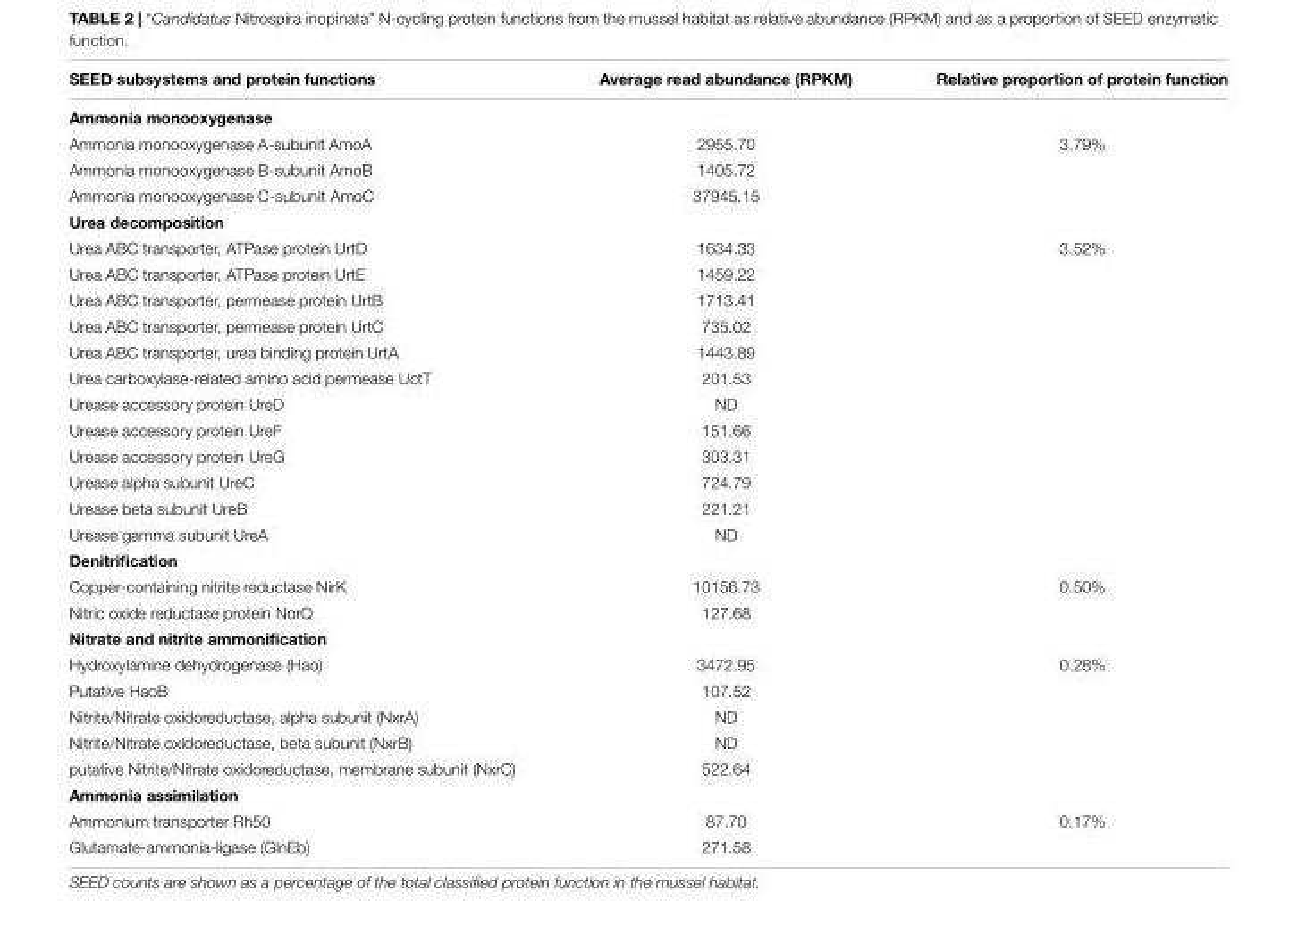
<table><thead><tr><td>SEED subsystems and protein functions</td><td>Average read abundance (RPKM)</td><td>Relative proportion of protein function</td></tr></thead><tbody><tr><td colspan="3">Ammonia monooxygenase</td></tr><tr><td>Ammonia monooxygenase A-subunit AmoA</td><td>2955.70</td><td>3.79%</td></tr><tr><td>Ammonia monooxygenase B-subunit AmoB</td><td>1405.72</td><td></td></tr><tr><td>Ammonia monooxygenase C-subunit AmoC</td><td>37945.15</td><td></td></tr><tr><td colspan="3">Urea decomposition</td></tr><tr><td>Urea ABC transporter, ATPase protein UrtD</td><td>1634.33</td><td>3.52%</td></tr><tr><td>Urea ABC transporter, ATPase protein UrtE</td><td>1459.22</td><td></td></tr><tr><td>Urea ABC transporter, permease protein UrtB</td><td>1713.41</td><td></td></tr><tr><td>Urea ABC transporter, permease protein UrtC</td><td>735.02</td><td></td></tr><tr><td>Urea ABC transporter, urea binding protein UrtA</td><td>1443.89</td><td></td></tr><tr><td>Urea carboxylase-related amino acid permease UctT</td><td>201.53</td><td></td></tr><tr><td>Urease accessory protein UreD</td><td>ND</td><td></td></tr><tr><td>Urease accessory protein UreF</td><td>151.66</td><td></td></tr><tr><td>Urease accessory protein UreG</td><td>303.31</td><td></td></tr><tr><td>Urease alpha subunit UreC</td><td>724.79</td><td></td></tr><tr><td>Urease beta subunit UreB</td><td>221.21</td><td></td></tr><tr><td>Urease gamma subunit UreA</td><td>ND</td><td></td></tr><tr><td colspan="3">Denitrification</td></tr><tr><td>Copper-containing nitrite reductase NirK</td><td>10156.73</td><td>0.50%</td></tr><tr><td>Nitric oxide reductase protein NorQ</td><td>127.68</td><td></td></tr><tr><td colspan="3">Nitrate and nitrite ammonification</td></tr><tr><td>Hydroxylamine dehydrogenase (Hao)</td><td>3472.95</td><td>0.28%</td></tr><tr><td>Putative HaoB</td><td>107.52</td><td></td></tr><tr><td>Nitrite/Nitrate oxidoreductase, alpha subunit (NxrA)</td><td>ND</td><td></td></tr><tr><td>Nitrite/Nitrate oxidoreductase, beta subunit (NxrB)</td><td>ND</td><td></td></tr><tr><td>putative Nitrite/Nitrate oxidoreductase, membrane subunit (NxrC)</td><td>522.64</td><td></td></tr><tr><td colspan="3">Ammonia assimilation</td></tr><tr><td>Ammonium transporter Rh50</td><td>87.70</td><td>0.17%</td></tr><tr><td>Glutamate-ammonia-ligase (GlnEb)</td><td>271.58</td><td></td></tr></tbody></table>